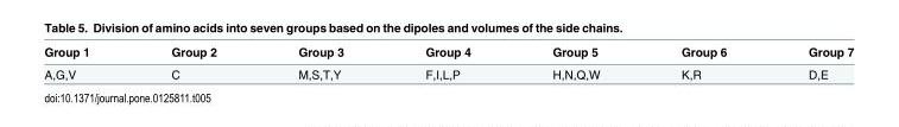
<table><thead><tr><td>Group 1</td><td>Group 2</td><td>Group 3</td><td>Group 4</td><td>Group 5</td><td>Group 6</td><td>Group 7</td></tr></thead><tbody><tr><td>A,G,V</td><td>C</td><td>M,S,T,Y</td><td>F,I,L,P</td><td>H,N,Q,W</td><td>K,R</td><td>D,E</td></tr></tbody></table>